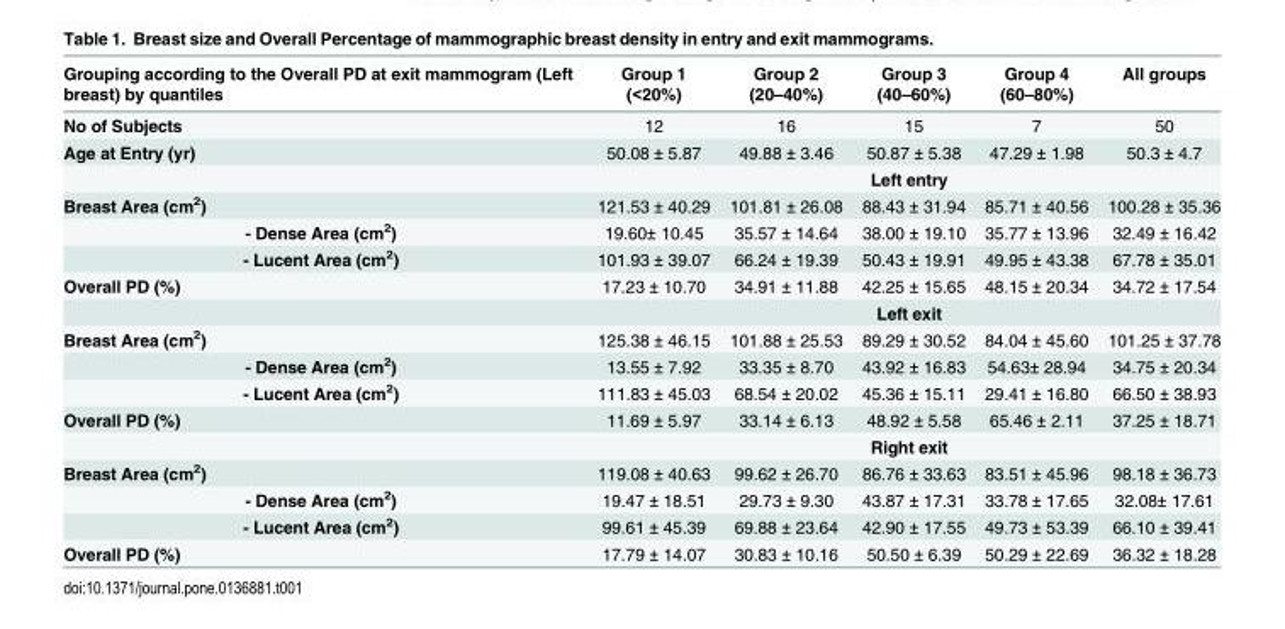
<table><thead><tr><td>Grouping according to the Overall PD at exit mammogram (Left breast) by quantiles</td><td>Group 1 (&lt;20%)</td><td>Group 2 (20–40%)</td><td>Group 3 (40–60%)</td><td>Group 4 (60–80%)</td><td>All groups</td></tr></thead><tbody><tr><td>No of Subjects</td><td>12</td><td>16</td><td>15</td><td>7</td><td>50</td></tr><tr><td rowspan="2">Age at Entry (yr)</td><td>50.08 ± 5.87</td><td>49.88 ± 3.46</td><td>50.87 ± 5.38</td><td>47.29 ± 1.98</td><td>50.3 ± 4.7</td></tr><tr><td colspan="5">Left entry</td></tr><tr><td>Breast Area (cm<sup>2</sup>)</td><td>121.53 ± 40.29</td><td>101.81 ± 26.08</td><td>88.43 ± 31.94</td><td>85.71 ± 40.56</td><td>100.28 ± 35.36</td></tr><tr><td>- Dense Area (cm<sup>2</sup>)</td><td>19.60± 10.45</td><td>35.57 ± 14.64</td><td>38.00 ± 19.10</td><td>35.77 ± 13.96</td><td>32.49 ± 16.42</td></tr><tr><td>- Lucent Area (cm<sup>2</sup>)</td><td>101.93 ± 39.07</td><td>66.24 ± 19.39</td><td>50.43 ± 19.91</td><td>49.95 ± 43.38</td><td>67.78 ± 35.01</td></tr><tr><td rowspan="2">Overall PD (%)</td><td>17.23 ± 10.70</td><td>34.91 ± 11.88</td><td>42.25 ± 15.65</td><td>48.15 ± 20.34</td><td>34.72 ± 17.54</td></tr><tr><td colspan="5">Left exit</td></tr><tr><td>Breast Area (cm<sup>2</sup>)</td><td>125.38 ± 46.15</td><td>101.88 ± 25.53</td><td>89.29 ± 30.52</td><td>84.04 ± 45.60</td><td>101.25 ± 37.78</td></tr><tr><td>- Dense Area (cm<sup>2</sup>)</td><td>13.55 ± 7.92</td><td>33.35 ± 8.70</td><td>43.92 ± 16.83</td><td>54.63± 28.94</td><td>34.75 ± 20.34</td></tr><tr><td>- Lucent Area (cm<sup>2</sup>)</td><td>111.83 ± 45.03</td><td>68.54 ± 20.02</td><td>45.36 ± 15.11</td><td>29.41 ± 16.80</td><td>66.50 ± 38.93</td></tr><tr><td rowspan="2">Overall PD (%)</td><td>11.69 ± 5.97</td><td>33.14 ± 6.13</td><td>48.92 ± 5.58</td><td>65.46 ± 2.11</td><td>37.25 ± 18.71</td></tr><tr><td colspan="5">Right exit</td></tr><tr><td>Breast Area (cm<sup>2</sup>)</td><td>119.08 ± 40.63</td><td>99.62 ± 26.70</td><td>86.76 ± 33.63</td><td>83.51 ± 45.96</td><td>98.18 ± 36.73</td></tr><tr><td>- Dense Area (cm<sup>2</sup>)</td><td>19.47 ± 18.51</td><td>29.73 ± 9.30</td><td>43.87 ± 17.31</td><td>33.78 ± 17.65</td><td>32.08± 17.61</td></tr><tr><td>- Lucent Area (cm<sup>2</sup>)</td><td>99.61 ± 45.39</td><td>69.88 ± 23.64</td><td>42.90 ± 17.55</td><td>49.73 ± 53.39</td><td>66.10 ± 39.41</td></tr><tr><td>Overall PD (%)</td><td>17.79 ± 14.07</td><td>30.83 ± 10.16</td><td>50.50 ± 6.39</td><td>50.29 ± 22.69</td><td>36.32 ± 18.28</td></tr></tbody></table>